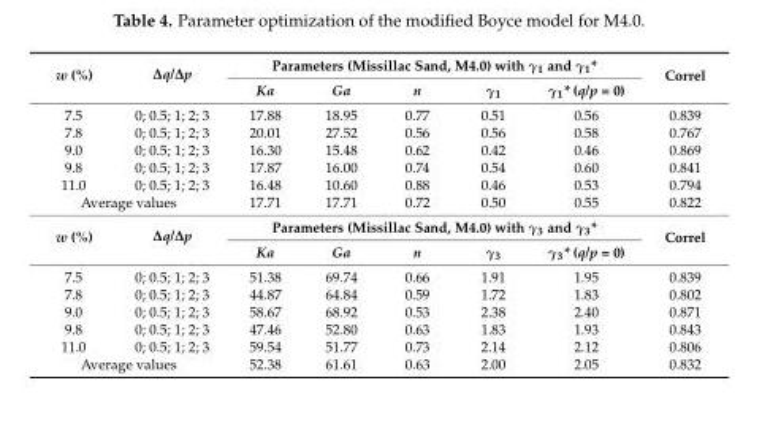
<table><tbody><tr><td rowspan="2">w (%)</td><td rowspan="2">∆q/∆p</td><td colspan="5">Parameters (Missillac Sand, M4.0) with γ<sub>1</sub> and γ<sub>1</sub>*</td><td rowspan="2">Correl</td></tr><tr><td>Ka</td><td>Ga</td><td>n</td><td>γ<sub>1</sub></td><td>γ<sub>1</sub>* (q/p = 0)</td></tr><tr><td>7.5</td><td>0; 0.5; 1; 2; 3</td><td>17.88</td><td>18.95</td><td>0.77</td><td>0.51</td><td>0.56</td><td>0.839</td></tr><tr><td>7.8</td><td>0; 0.5; 1; 2; 3</td><td>20.01</td><td>27.52</td><td>0.56</td><td>0.56</td><td>0.58</td><td>0.767</td></tr><tr><td>9.0</td><td>0; 0.5; 1; 2; 3</td><td>16.30</td><td>15.48</td><td>0.62</td><td>0.42</td><td>0.46</td><td>0.869</td></tr><tr><td>9.8</td><td>0; 0.5; 1; 2; 3</td><td>17.87</td><td>16.00</td><td>0.74</td><td>0.54</td><td>0.60</td><td>0.841</td></tr><tr><td>11.0</td><td>0; 0.5; 1; 2; 3</td><td>16.48</td><td>10.60</td><td>0.88</td><td>0.46</td><td>0.53</td><td>0.794</td></tr><tr><td colspan="2">Average values</td><td>17.71</td><td>17.71</td><td>0.72</td><td>0.50</td><td>0.55</td><td>0.822</td></tr><tr><td rowspan="2">w (%)</td><td rowspan="2">∆q/∆p</td><td colspan="5">Parameters (Missillac Sand, M4.0) with γ<sub>3</sub> and γ<sub>3</sub>*</td><td rowspan="2">Correl</td></tr><tr><td>Ka</td><td>Ga</td><td>n</td><td>γ<sub>3</sub></td><td>γ<sub>3</sub>* (q/p = 0)</td></tr><tr><td>7.5</td><td>0; 0.5; 1; 2; 3</td><td>51.38</td><td>69.74</td><td>0.66</td><td>1.91</td><td>1.95</td><td>0.839</td></tr><tr><td>7.8</td><td>0; 0.5; 1; 2; 3</td><td>44.87</td><td>64.84</td><td>0.59</td><td>1.72</td><td>1.83</td><td>0.802</td></tr><tr><td>9.0</td><td>0; 0.5; 1; 2; 3</td><td>58.67</td><td>68.92</td><td>0.53</td><td>2.38</td><td>2.40</td><td>0.871</td></tr><tr><td>9.8</td><td>0; 0.5; 1; 2; 3</td><td>47.46</td><td>52.80</td><td>0.63</td><td>1.83</td><td>1.93</td><td>0.843</td></tr><tr><td>11.0</td><td>0; 0.5; 1; 2; 3</td><td>59.54</td><td>51.77</td><td>0.73</td><td>2.14</td><td>2.12</td><td>0.806</td></tr><tr><td colspan="2">Average values</td><td>52.38</td><td>61.61</td><td>0.63</td><td>2.00</td><td>2.05</td><td>0.832</td></tr></tbody></table>